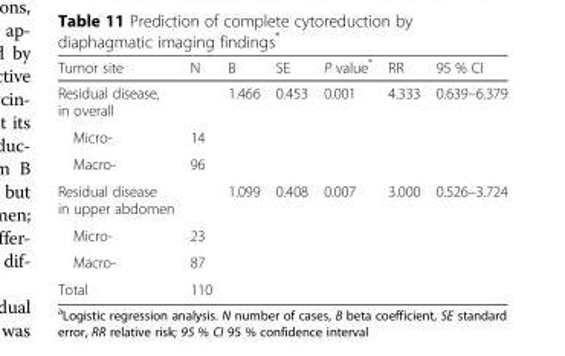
<table><thead><tr><td>Tumor site</td><td>N</td><td>B</td><td>SE</td><td>P value*</td><td>RR</td><td>95 % CI</td></tr></thead><tbody><tr><td>Residual disease, in overall</td><td></td><td>1.466</td><td>0.453</td><td>0.001</td><td>4.333</td><td>0.639–6.379</td></tr><tr><td>Micro-</td><td>14</td><td></td><td></td><td></td><td></td><td></td></tr><tr><td>Macro-</td><td>96</td><td></td><td></td><td></td><td></td><td></td></tr><tr><td>Residual disease in upper abdomen</td><td></td><td>1.099</td><td>0.408</td><td>0.007</td><td>3.000</td><td>0.526–3.724</td></tr><tr><td>Micro-</td><td>23</td><td></td><td></td><td></td><td></td><td></td></tr><tr><td>Macro-</td><td>87</td><td></td><td></td><td></td><td></td><td></td></tr><tr><td>Total</td><td>110</td><td></td><td></td><td></td><td></td><td></td></tr></tbody></table>